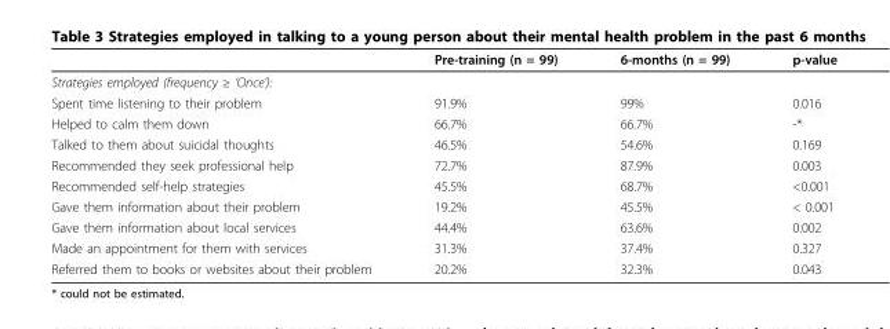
<table><thead><tr><td></td><td>Pre-training (n = 99)</td><td>6-months (n = 99)</td><td>p-value</td></tr></thead><tbody><tr><td colspan="4">Strategies employed (frequency ≥ ‘Once’):</td></tr><tr><td>Spent time listening to their problem</td><td>91.9%</td><td>99%</td><td>0.016</td></tr><tr><td>Helped to calm them down</td><td>66.7%</td><td>66.7%</td><td>-*</td></tr><tr><td>Talked to them about suicidal thoughts</td><td>46.5%</td><td>54.6%</td><td>0.169</td></tr><tr><td>Recommended they seek professional help</td><td>72.7%</td><td>87.9%</td><td>0.003</td></tr><tr><td>Recommended self-help strategies</td><td>45.5%</td><td>68.7%</td><td>&lt;0.001</td></tr><tr><td>Gave them information about their problem</td><td>19.2%</td><td>45.5%</td><td>&lt; 0.001</td></tr><tr><td>Gave them information about local services</td><td>44.4%</td><td>63.6%</td><td>0.002</td></tr><tr><td>Made an appointment for them with services</td><td>31.3%</td><td>37.4%</td><td>0.327</td></tr><tr><td>Referred them to books or websites about their problem</td><td>20.2%</td><td>32.3%</td><td>0.043</td></tr></tbody></table>